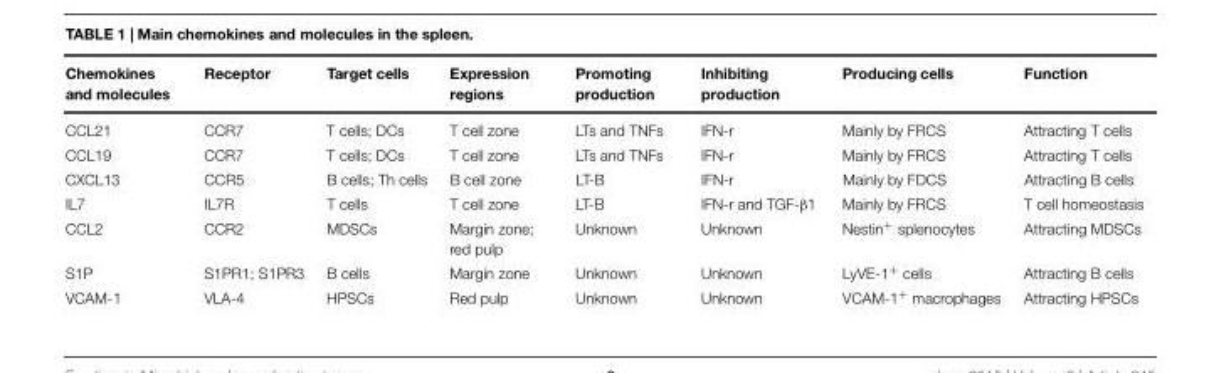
<table><thead><tr><td>Chemokines and molecules</td><td>Receptor</td><td>Target cells</td><td>Expression regions</td><td>Promoting production</td><td>Inhibiting production</td><td>Producing cells</td><td>Function</td></tr></thead><tbody><tr><td>CCL21</td><td>CCR7</td><td>T cells; DCs</td><td>T cell zone</td><td>LTs and TNFs</td><td>IFN-r</td><td>Mainly by FRCS</td><td>Attracting T cells</td></tr><tr><td>CCL19</td><td>CCR7</td><td>T cells; DCs</td><td>T cell zone</td><td>LTs and TNFs</td><td>IFN-r</td><td>Mainly by FRCS</td><td>Attracting T cells</td></tr><tr><td>CXCL13</td><td>CCR5</td><td>B cells; Th cells</td><td>B cell zone</td><td>LT-B</td><td>IFN-r</td><td>Mainly by FDCS</td><td>Attracting B cells</td></tr><tr><td>IL7</td><td>IL7R</td><td>T cells</td><td>T cell zone</td><td>LT-B</td><td>IFN-r and TGF-β1</td><td>Mainly by FRCS</td><td>T cell homeostasis</td></tr><tr><td>CCL2</td><td>CCR2</td><td>MDSCs</td><td>Margin zone; red pulp</td><td>Unknown</td><td>Unknown</td><td>Nestin<sup>+</sup> splenocytes</td><td>Attracting MDSCs</td></tr><tr><td>S1P</td><td>S1PR1; S1PR3</td><td>B cells</td><td>Margin zone</td><td>Unknown</td><td>Unknown</td><td>LyVE-1<sup>+</sup> cells</td><td>Attracting B cells</td></tr><tr><td>VCAM-1</td><td>VLA-4</td><td>HPSCs</td><td>Red pulp</td><td>Unknown</td><td>Unknown</td><td>VCAM-1<sup>+</sup> macrophages</td><td>Attracting HPSCs</td></tr></tbody></table>